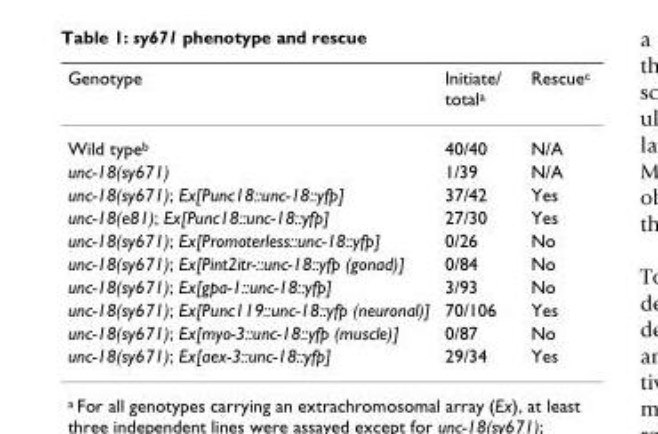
<table><thead><tr><td>Genotype</td><td>Initiate/ total<sup>a</sup></td><td>Rescue<sup>c</sup></td></tr></thead><tbody><tr><td>Wild type<sup>b</sup></td><td>40/40</td><td>N/A</td></tr><tr><td>unc-18(sy671)</td><td>1/39</td><td>N/A</td></tr><tr><td>unc-18(sy671); Ex[Punc18::unc-18::yfp]</td><td>37/42</td><td>Yes</td></tr><tr><td>unc-18(e81); Ex[Punc18::unc-18::yfp]</td><td>27/30</td><td>Yes</td></tr><tr><td>unc-18(sy671); Ex[Promoterless::unc-18::yfp]</td><td>0/26</td><td>No</td></tr><tr><td>unc-18(sy671); Ex[Pint2itr-::unc-18::yfp (gonad)]</td><td>0/84</td><td>No</td></tr><tr><td>unc-18(sy671); Ex[gpa-1::unc-18::yfp]</td><td>3/93</td><td>No</td></tr><tr><td>unc-18(sy671); Ex[Punc119::unc-18::yfp (neuronal)]</td><td>70/106</td><td>Yes</td></tr><tr><td>unc-18(sy671); Ex[myo-3::unc-18::yfp (muscle)]</td><td>0/87</td><td>No</td></tr><tr><td>unc-18(sy671); Ex[aex-3::unc-18::yfp]</td><td>29/34</td><td>Yes</td></tr></tbody></table>